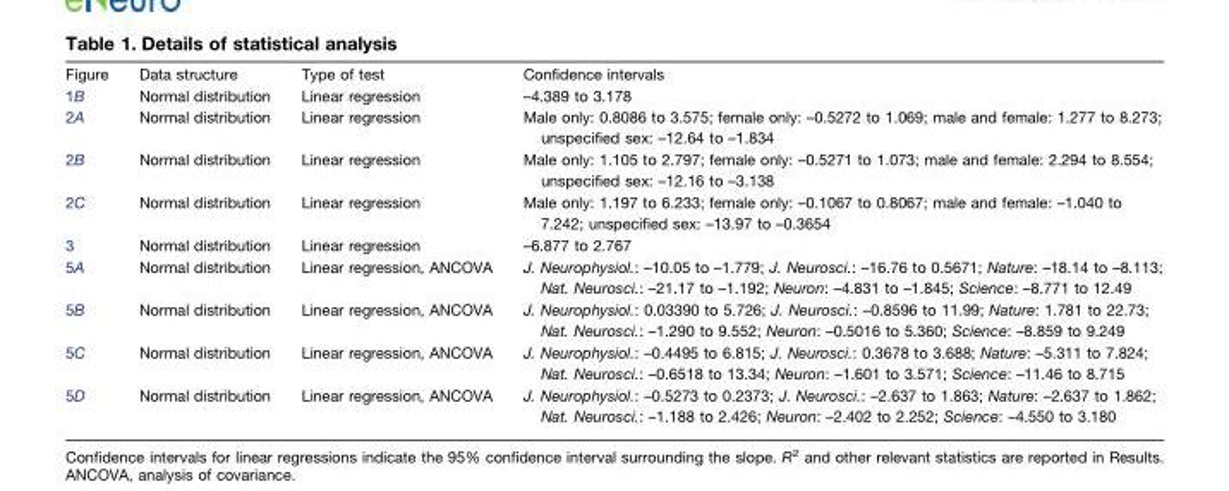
<table><thead><tr><td>Figure</td><td>Data structure</td><td>Type of test</td><td>Confidence intervals</td></tr></thead><tbody><tr><td>1B</td><td>Normal distribution</td><td>Linear regression</td><td>–4.389 to 3.178</td></tr><tr><td>2A</td><td>Normal distribution</td><td>Linear regression</td><td>Male only: 0.8086 to 3.575; female only: –0.5272 to 1.069; male and female: 1.277 to 8.273; unspecified sex: –12.64 to –1.834</td></tr><tr><td>2B</td><td>Normal distribution</td><td>Linear regression</td><td>Male only: 1.105 to 2.797; female only: –0.5271 to 1.073; male and female: 2.294 to 8.554; unspecified sex: –12.16 to –3.138</td></tr><tr><td>2C</td><td>Normal distribution</td><td>Linear regression</td><td>Male only: 1.197 to 6.233; female only: –0.1067 to 0.8067; male and female: –1.040 to 7.242; unspecified sex: –13.97 to –0.3654</td></tr><tr><td>3</td><td>Normal distribution</td><td>Linear regression</td><td>–6.877 to 2.767</td></tr><tr><td>5A</td><td>Normal distribution</td><td>Linear regression, ANCOVA</td><td>J. Neurophysiol.: –10.05 to –1.779; J. Neurosci.: –16.76 to 0.5671; Nature: –18.14 to –8.113; Nat. Neurosci.: –21.17 to –1.192; Neuron: –4.831 to –1.845; Science: –8.771 to 12.49</td></tr><tr><td>5B</td><td>Normal distribution</td><td>Linear regression, ANCOVA</td><td>J. Neurophysiol.: 0.03390 to 5.726; J. Neurosci.: –0.8596 to 11.99; Nature: 1.781 to 22.73; Nat. Neurosci.: –1.290 to 9.552; Neuron: –0.5016 to 5.360; Science: –8.859 to 9.249</td></tr><tr><td>5C</td><td>Normal distribution</td><td>Linear regression, ANCOVA</td><td>J. Neurophysiol.: –0.4495 to 6.815; J. Neurosci.: 0.3678 to 3.688; Nature: –5.311 to 7.824; Nat. Neurosci.: –0.6518 to 13.34; Neuron: –1.601 to 3.571; Science: –11.46 to 8.715</td></tr><tr><td>5D</td><td>Normal distribution</td><td>Linear regression, ANCOVA</td><td>J. Neurophysiol.: –0.5273 to 0.2373; J. Neurosci.: –2.637 to 1.863; Nature: –2.637 to 1.862; Nat. Neurosci.: –1.188 to 2.426; Neuron: –2.402 to 2.252; Science: –4.550 to 3.180</td></tr></tbody></table>